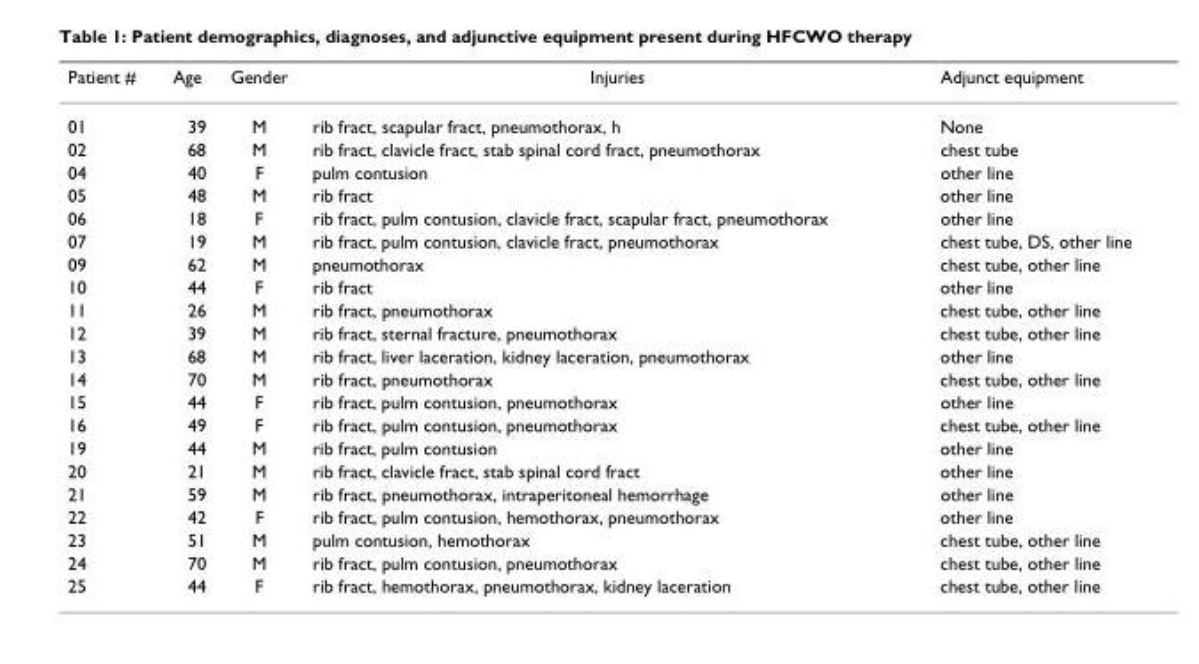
<table><thead><tr><td>Patient #</td><td>Age</td><td>Gender</td><td>Injuries</td><td>Adjunct equipment</td></tr></thead><tbody><tr><td>01</td><td>39</td><td>M</td><td>rib fract, scapular fract, pneumothorax, h</td><td>None</td></tr><tr><td>02</td><td>68</td><td>M</td><td>rib fract, clavicle fract, stab spinal cord fract, pneumothorax</td><td>chest tube</td></tr><tr><td>04</td><td>40</td><td>F</td><td>pulm contusion</td><td>other line</td></tr><tr><td>05</td><td>48</td><td>M</td><td>rib fract</td><td>other line</td></tr><tr><td>06</td><td>18</td><td>F</td><td>rib fract, pulm contusion, clavicle fract, scapular fract, pneumothorax</td><td>other line</td></tr><tr><td>07</td><td>19</td><td>M</td><td>rib fract, pulm contusion, clavicle fract, pneumothorax</td><td>chest tube, DS, other line</td></tr><tr><td>09</td><td>62</td><td>M</td><td>pneumothorax</td><td>chest tube, other line</td></tr><tr><td>10</td><td>44</td><td>F</td><td>rib fract</td><td>other line</td></tr><tr><td>11</td><td>26</td><td>M</td><td>rib fract, pneumothorax</td><td>chest tube, other line</td></tr><tr><td>12</td><td>39</td><td>M</td><td>rib fract, sternal fracture, pneumothorax</td><td>chest tube, other line</td></tr><tr><td>13</td><td>68</td><td>M</td><td>rib fract, liver laceration, kidney laceration, pneumothorax</td><td>other line</td></tr><tr><td>14</td><td>70</td><td>M</td><td>rib fract, pneumothorax</td><td>chest tube, other line</td></tr><tr><td>15</td><td>44</td><td>F</td><td>rib fract, pulm contusion, pneumothorax</td><td>other line</td></tr><tr><td>16</td><td>49</td><td>F</td><td>rib fract, pulm contusion, pneumothorax</td><td>chest tube, other line</td></tr><tr><td>19</td><td>44</td><td>M</td><td>rib fract, pulm contusion</td><td>other line</td></tr><tr><td>20</td><td>21</td><td>M</td><td>rib fract, clavicle fract, stab spinal cord fract</td><td>other line</td></tr><tr><td>21</td><td>59</td><td>M</td><td>rib fract, pneumothorax, intraperitoneal hemorrhage</td><td>other line</td></tr><tr><td>22</td><td>42</td><td>F</td><td>rib fract, pulm contusion, hemothorax, pneumothorax</td><td>other line</td></tr><tr><td>23</td><td>51</td><td>M</td><td>pulm contusion, hemothorax</td><td>chest tube, other line</td></tr><tr><td>24</td><td>70</td><td>M</td><td>rib fract, pulm contusion, pneumothorax</td><td>chest tube, other line</td></tr><tr><td>25</td><td>44</td><td>F</td><td>rib fract, hemothorax, pneumothorax, kidney laceration</td><td>chest tube, other line</td></tr></tbody></table>